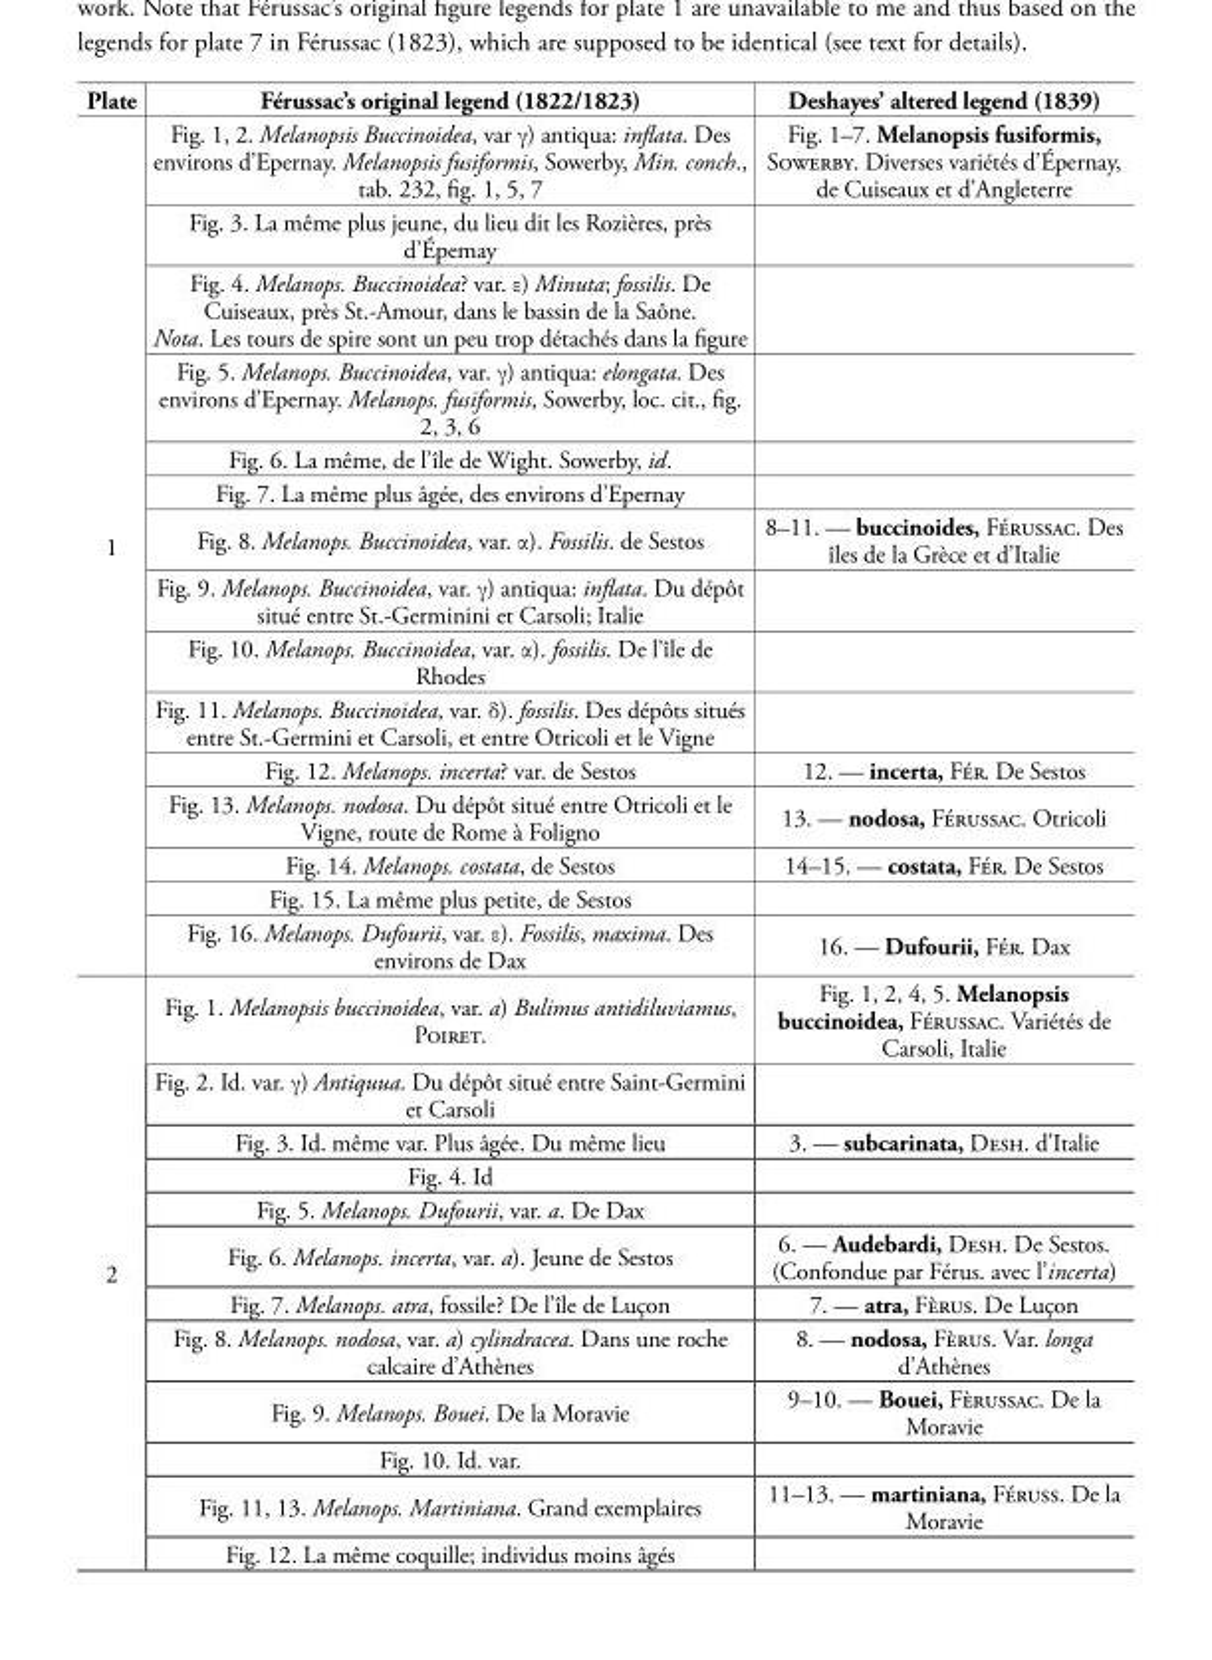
<table><tbody><tr><td>Plate</td><td>Férussac’s original legend (1822/1823)</td><td>Deshayes’ altered legend (1839)</td></tr><tr><td rowspan="15">1</td><td>Fig. 1, 2. Melanopsis Buccinoidea, var γ) antiqua: inflata. Des environs d’Epernay. Melanopsis fusiformis, Sowerby, Min. conch., tab. 232, fig. 1, 5, 7</td><td>Fig. 1–7. Melanopsis fusiformis, Sowerby. Diverses variétés d’Épernay, de Cuiseaux et d’Angleterre</td></tr><tr><td>Fig. 3. La même plus jeune, du lieu dit les Rozières, près d’Épemay</td><td></td></tr><tr><td>Fig. 4. Melanops. Buccinoidea? var. ε) Minuta; fossilis. De Cuiseaux, près St.-Amour, dans le bassin de la Saône. Nota. Les tours de spire sont un peu trop détachés dans la figure</td><td></td></tr><tr><td>Fig. 5. Melanops. Buccinoidea, var. γ) antiqua: elongata. Des environs d’Epernay. Melanops. fusiformis, Sowerby, loc. cit., fig. 2, 3, 6</td><td></td></tr><tr><td>Fig. 6. La même, de l’île de Wight. Sowerby, id.</td><td></td></tr><tr><td>Fig. 7. La même plus âgée, des environs d’Epernay</td><td></td></tr><tr><td>Fig. 8. Melanops. Buccinoidea, var. α). Fossilis. de Sestos</td><td>8–11. — buccinoides, Férussac. Des îles de la Grèce et d’Italie</td></tr><tr><td>Fig. 9. Melanops. Buccinoidea, var. γ) antiqua: inflata. Du dépôt situé entre St.-Germinini et Carsoli; Italie</td><td></td></tr><tr><td>Fig. 10. Melanops. Buccinoidea, var. α). fossilis. De l’île de Rhodes</td><td></td></tr><tr><td>Fig. 11. Melanops. Buccinoidea, var. δ). fossilis. Des dépôts situés entre St.-Germini et Carsoli, et entre Otricoli et le Vigne</td><td></td></tr><tr><td>Fig. 12. Melanops. incerta? var. de Sestos</td><td>12. — incerta, Fér. De Sestos</td></tr><tr><td>Fig. 13. Melanops. nodosa. Du dépôt situé entre Otricoli et le Vigne, route de Rome à Foligno</td><td>13. — nodosa, Férussac. Otricoli</td></tr><tr><td>Fig. 14. Melanops. costata, de Sestos</td><td>14–15. — costata, Fér. De Sestos</td></tr><tr><td>Fig. 15. La même plus petite, de Sestos</td><td></td></tr><tr><td>Fig. 16. Melanops. Dufourii, var. ε). Fossilis, maxima. Des environs de Dax</td><td>16. — Dufourii, Fér. Dax</td></tr><tr><td rowspan="12">2</td><td>Fig. 1. Melanopsis buccinoidea, var. a) Bulimus antidiluviamus, Poiret.</td><td>Fig. 1, 2, 4, 5. Melanopsis buccinoidea, Férussac. Variétés de Carsoli, Italie</td></tr><tr><td>Fig. 2. Id. var. γ) Antiquua. Du dépôt situé entre Saint-Germini et Carsoli</td><td></td></tr><tr><td>Fig. 3. Id. même var. Plus âgée. Du même lieu</td><td>3. — subcarinata, Desh. d’Italie</td></tr><tr><td>Fig. 4. Id</td><td></td></tr><tr><td>Fig. 5. Melanops. Dufourii, var. a. De Dax</td><td></td></tr><tr><td>Fig. 6. Melanops. incerta, var. a). Jeune de Sestos</td><td>6. — Audebardi, Desh. De Sestos. (Confondue par Férus. avec l’incerta)</td></tr><tr><td>Fig. 7. Melanops. atra, fossile? De l’île de Luçon</td><td>7. — atra, Fèrus. De Luçon</td></tr><tr><td>Fig. 8. Melanops. nodosa, var. a) cylindracea. Dans une roche calcaire d’Athènes</td><td>8. — nodosa, Fèrus. Var. longa d’Athènes</td></tr><tr><td>Fig. 9. Melanops. Bouei. De la Moravie</td><td>9–10. — Bouei, Fèrussac. De la Moravie</td></tr><tr><td>Fig. 10. Id. var.</td><td></td></tr><tr><td>Fig. 11, 13. Melanops. Martiniana. Grand exemplaires</td><td>11–13. — martiniana, Féruss. De la Moravie</td></tr><tr><td>Fig. 12. La même coquille; individus moins âgés</td><td></td></tr></tbody></table>